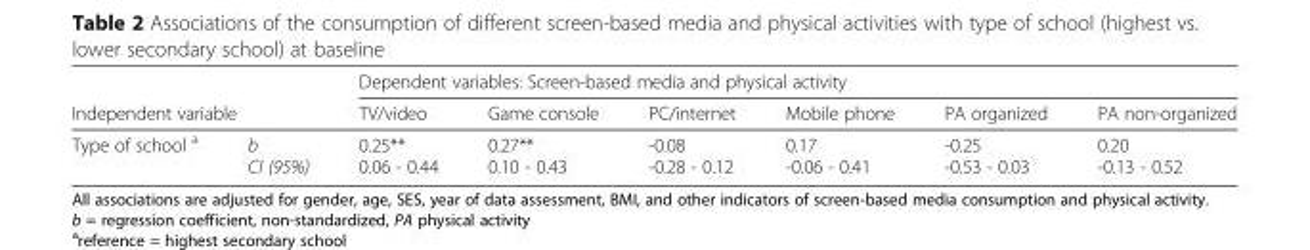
<table><thead><tr><td></td><td></td><td colspan="6">Dependent variables: Screen-based media and physical activity</td></tr><tr><td colspan="2">Independent variable</td><td>TV/video</td><td>Game console</td><td>PC/internet</td><td>Mobile phone</td><td>PA organized</td><td>PA non-organized</td></tr></thead><tbody><tr><td>Type of school <sup>a</sup></td><td>b CI (95%)</td><td>0.25** 0.06 - 0.44</td><td>0.27** 0.10 - 0.43</td><td>-0.08 -0.28 - 0.12</td><td>0.17 -0.06 - 0.41</td><td>-0.25 -0.53 - 0.03</td><td>0.20 -0.13 - 0.52</td></tr></tbody></table>